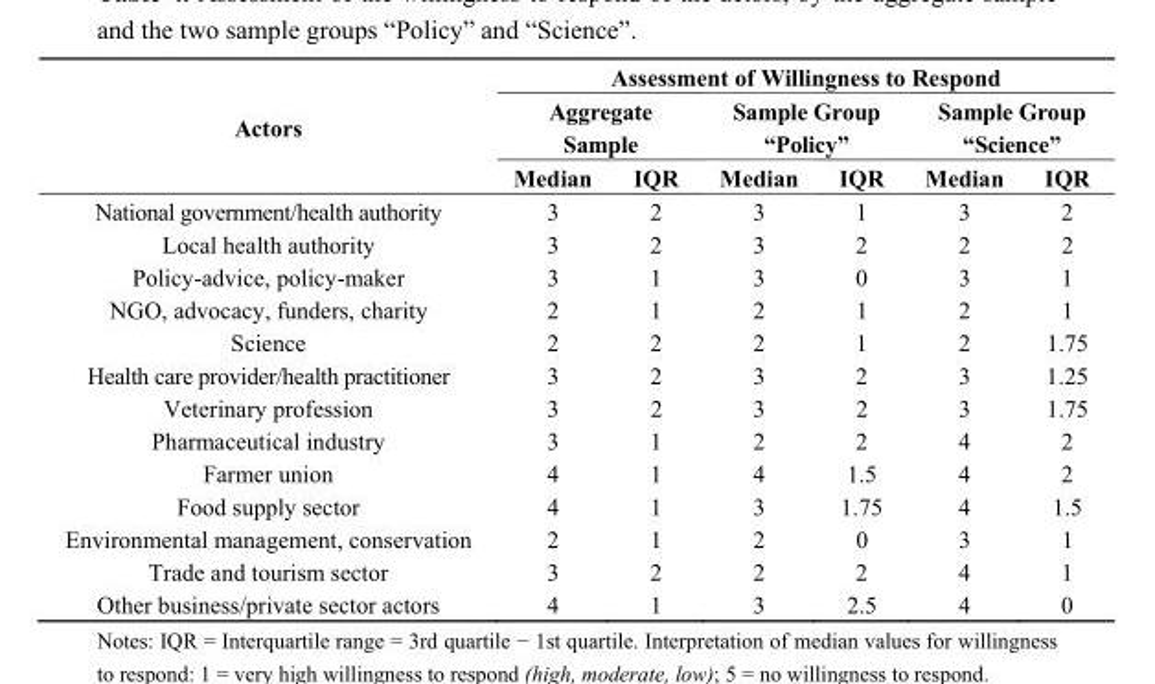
<table><thead><tr><td rowspan="3">Actors</td><td colspan="6">Assessment of Willingness to Respond</td></tr><tr><td colspan="2">Aggregate Sample</td><td colspan="2">Sample Group “Policy”</td><td colspan="2">Sample Group “Science”</td></tr><tr><td>Median</td><td>IQR</td><td>Median</td><td>IQR</td><td>Median</td><td>IQR</td></tr></thead><tbody><tr><td>National government/health authority</td><td>3</td><td>2</td><td>3</td><td>1</td><td>3</td><td>2</td></tr><tr><td>Local health authority</td><td>3</td><td>2</td><td>3</td><td>2</td><td>2</td><td>2</td></tr><tr><td>Policy-advice, policy-maker</td><td>3</td><td>1</td><td>3</td><td>0</td><td>3</td><td>1</td></tr><tr><td>NGO, advocacy, funders, charity</td><td>2</td><td>1</td><td>2</td><td>1</td><td>2</td><td>1</td></tr><tr><td>Science</td><td>2</td><td>2</td><td>2</td><td>1</td><td>2</td><td>1.75</td></tr><tr><td>Health care provider/health practitioner</td><td>3</td><td>2</td><td>3</td><td>2</td><td>3</td><td>1.25</td></tr><tr><td>Veterinary profession</td><td>3</td><td>2</td><td>3</td><td>2</td><td>3</td><td>1.75</td></tr><tr><td>Pharmaceutical industry</td><td>3</td><td>1</td><td>2</td><td>2</td><td>4</td><td>2</td></tr><tr><td>Farmer union</td><td>4</td><td>1</td><td>4</td><td>1.5</td><td>4</td><td>2</td></tr><tr><td>Food supply sector</td><td>4</td><td>1</td><td>3</td><td>1.75</td><td>4</td><td>1.5</td></tr><tr><td>Environmental management, conservation</td><td>2</td><td>1</td><td>2</td><td>0</td><td>3</td><td>1</td></tr><tr><td>Trade and tourism sector</td><td>3</td><td>2</td><td>2</td><td>2</td><td>4</td><td>1</td></tr><tr><td>Other business/private sector actors</td><td>4</td><td>1</td><td>3</td><td>2.5</td><td>4</td><td>0</td></tr></tbody></table>